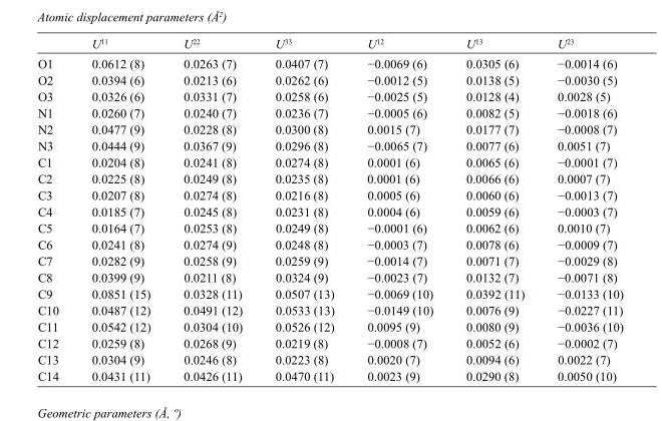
<table><thead><tr><td></td><td>U<sup>11</sup></td><td>U<sup>22</sup></td><td>U<sup>33</sup></td><td>U<sup>12</sup></td><td>U<sup>13</sup></td><td>U<sup>23</sup></td></tr></thead><tbody><tr><td>O1</td><td>0.0612 (8)</td><td>0.0263 (7)</td><td>0.0407 (7)</td><td>−0.0069 (6)</td><td>0.0305 (6)</td><td>−0.0014 (6)</td></tr><tr><td>O2</td><td>0.0394 (6)</td><td>0.0213 (6)</td><td>0.0262 (6)</td><td>−0.0012 (5)</td><td>0.0138 (5)</td><td>−0.0030 (5)</td></tr><tr><td>O3</td><td>0.0326 (6)</td><td>0.0331 (7)</td><td>0.0258 (6)</td><td>−0.0025 (5)</td><td>0.0128 (4)</td><td>0.0028 (5)</td></tr><tr><td>N1</td><td>0.0260 (7)</td><td>0.0240 (7)</td><td>0.0236 (7)</td><td>−0.0005 (6)</td><td>0.0082 (5)</td><td>−0.0018 (6)</td></tr><tr><td>N2</td><td>0.0477 (9)</td><td>0.0228 (8)</td><td>0.0300 (8)</td><td>0.0015 (7)</td><td>0.0177 (7)</td><td>−0.0008 (7)</td></tr><tr><td>N3</td><td>0.0444 (9)</td><td>0.0367 (9)</td><td>0.0296 (8)</td><td>−0.0065 (7)</td><td>0.0077 (6)</td><td>0.0051 (7)</td></tr><tr><td>C1</td><td>0.0204 (8)</td><td>0.0241 (8)</td><td>0.0274 (8)</td><td>0.0001 (6)</td><td>0.0065 (6)</td><td>−0.0001 (7)</td></tr><tr><td>C2</td><td>0.0225 (8)</td><td>0.0249 (8)</td><td>0.0235 (8)</td><td>0.0001 (6)</td><td>0.0066 (6)</td><td>0.0007 (7)</td></tr><tr><td>C3</td><td>0.0207 (8)</td><td>0.0274 (8)</td><td>0.0216 (8)</td><td>0.0005 (6)</td><td>0.0060 (6)</td><td>−0.0013 (7)</td></tr><tr><td>C4</td><td>0.0185 (7)</td><td>0.0245 (8)</td><td>0.0231 (8)</td><td>0.0004 (6)</td><td>0.0059 (6)</td><td>−0.0003 (7)</td></tr><tr><td>C5</td><td>0.0164 (7)</td><td>0.0253 (8)</td><td>0.0249 (8)</td><td>−0.0001 (6)</td><td>0.0062 (6)</td><td>0.0010 (7)</td></tr><tr><td>C6</td><td>0.0241 (8)</td><td>0.0274 (9)</td><td>0.0248 (8)</td><td>−0.0003 (7)</td><td>0.0078 (6)</td><td>−0.0009 (7)</td></tr><tr><td>C7</td><td>0.0282 (9)</td><td>0.0258 (9)</td><td>0.0259 (9)</td><td>−0.0014 (7)</td><td>0.0071 (7)</td><td>−0.0029 (8)</td></tr><tr><td>C8</td><td>0.0399 (9)</td><td>0.0211 (8)</td><td>0.0324 (9)</td><td>−0.0023 (7)</td><td>0.0132 (7)</td><td>−0.0071 (8)</td></tr><tr><td>C9</td><td>0.0851 (15)</td><td>0.0328 (11)</td><td>0.0507 (13)</td><td>−0.0069 (10)</td><td>0.0392 (11)</td><td>−0.0133 (10)</td></tr><tr><td>C10</td><td>0.0487 (12)</td><td>0.0491 (12)</td><td>0.0533 (13)</td><td>−0.0149 (10)</td><td>0.0076 (9)</td><td>−0.0227 (11)</td></tr><tr><td>C11</td><td>0.0542 (12)</td><td>0.0304 (10)</td><td>0.0526 (12)</td><td>0.0095 (9)</td><td>0.0080 (9)</td><td>−0.0036 (10)</td></tr><tr><td>C12</td><td>0.0259 (8)</td><td>0.0268 (9)</td><td>0.0219 (8)</td><td>−0.0008 (7)</td><td>0.0052 (6)</td><td>−0.0002 (7)</td></tr><tr><td>C13</td><td>0.0304 (9)</td><td>0.0246 (8)</td><td>0.0223 (8)</td><td>0.0020 (7)</td><td>0.0094 (6)</td><td>0.0022 (7)</td></tr><tr><td>C14</td><td>0.0431 (11)</td><td>0.0426 (11)</td><td>0.0470 (11)</td><td>0.0023 (9)</td><td>0.0290 (8)</td><td>0.0050 (10)</td></tr></tbody></table>